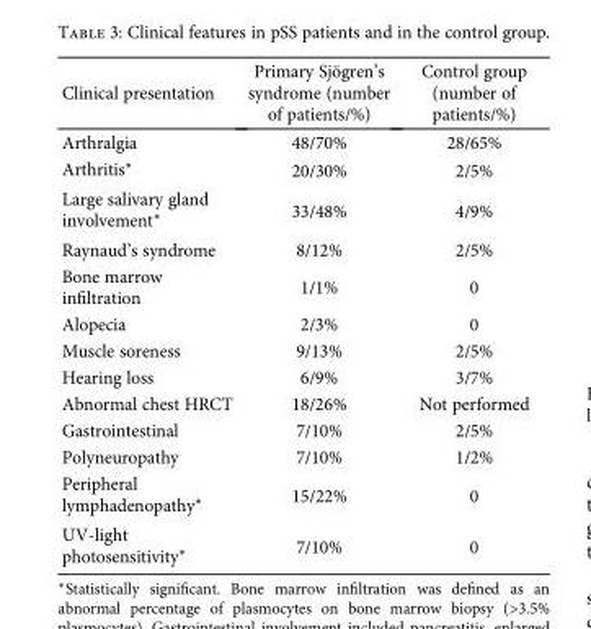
<table><thead><tr><td>Clinical presentation</td><td>Primary Sjögren’s syndrome (number of patients/%)</td><td>Control group (number of patients/%)</td></tr></thead><tbody><tr><td>Arthralgia</td><td>48/70%</td><td>28/65%</td></tr><tr><td>Arthritis∗</td><td>20/30%</td><td>2/5%</td></tr><tr><td>Large salivary gland involvement∗</td><td>33/48%</td><td>4/9%</td></tr><tr><td>Raynaud’s syndrome</td><td>8/12%</td><td>2/5%</td></tr><tr><td>Bone marrow infiltration</td><td>1/1%</td><td>0</td></tr><tr><td>Alopecia</td><td>2/3%</td><td>0</td></tr><tr><td>Muscle soreness</td><td>9/13%</td><td>2/5%</td></tr><tr><td>Hearing loss</td><td>6/9%</td><td>3/7%</td></tr><tr><td>Abnormal chest HRCT</td><td>18/26%</td><td>Not performed</td></tr><tr><td>Gastrointestinal</td><td>7/10%</td><td>2/5%</td></tr><tr><td>Polyneuropathy</td><td>7/10%</td><td>1/2%</td></tr><tr><td>Peripheral lymphadenopathy∗</td><td>15/22%</td><td>0</td></tr><tr><td>UV-light photosensitivity∗</td><td>7/10%</td><td>0</td></tr></tbody></table>